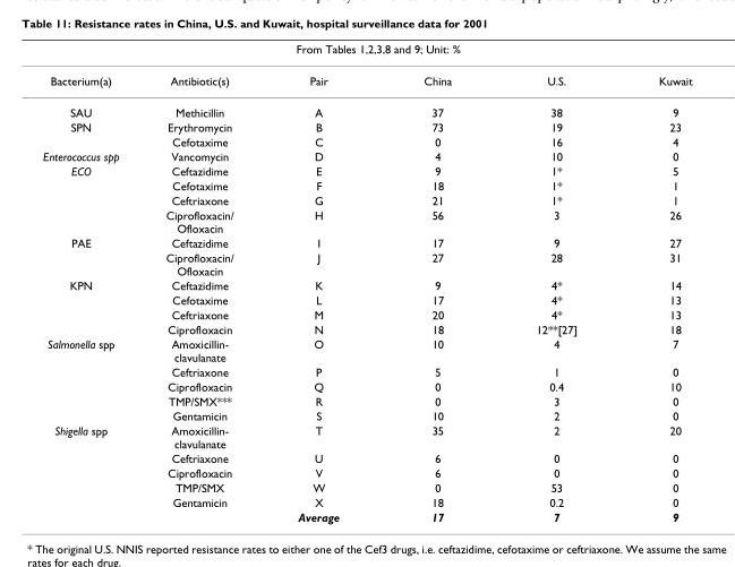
<table><thead><tr><td colspan="6">From Tables 1,2,3,8 and 9; Unit: %</td></tr><tr><td>Bacterium(a)</td><td>Antibiotic(s)</td><td>Pair</td><td>China</td><td>U.S.</td><td>Kuwait</td></tr></thead><tbody><tr><td>SAU</td><td>Methicillin</td><td>A</td><td>37</td><td>38</td><td>9</td></tr><tr><td rowspan="2">SPN</td><td>Erythromycin</td><td>B</td><td>73</td><td>19</td><td>23</td></tr><tr><td>Cefotaxime</td><td>C</td><td>0</td><td>16</td><td>4</td></tr><tr><td>Enterococcus spp</td><td>Vancomycin</td><td>D</td><td>4</td><td>10</td><td>0</td></tr><tr><td rowspan="4">ECO</td><td>Ceftazidime</td><td>E</td><td>9</td><td>1*</td><td>5</td></tr><tr><td>Cefotaxime</td><td>F</td><td>18</td><td>1*</td><td>1</td></tr><tr><td>Ceftriaxone</td><td>G</td><td>21</td><td>1*</td><td>1</td></tr><tr><td>Ciprofloxacin/ Ofloxacin</td><td>H</td><td>56</td><td>3</td><td>26</td></tr><tr><td rowspan="2">PAE</td><td>Ceftazidime</td><td>I</td><td>17</td><td>9</td><td>27</td></tr><tr><td>Ciprofloxacin/ Ofloxacin</td><td>J</td><td>27</td><td>28</td><td>31</td></tr><tr><td rowspan="4">KPN</td><td>Ceftazidime</td><td>K</td><td>9</td><td>4*</td><td>14</td></tr><tr><td>Cefotaxime</td><td>L</td><td>17</td><td>4*</td><td>13</td></tr><tr><td>Ceftriaxone</td><td>M</td><td>20</td><td>4*</td><td>13</td></tr><tr><td>Ciprofloxacin</td><td>N</td><td>18</td><td>12**[27]</td><td>18</td></tr><tr><td rowspan="5">Salmonella spp</td><td>Amoxicillin- clavulanate</td><td>O</td><td>10</td><td>4</td><td>7</td></tr><tr><td>Ceftriaxone</td><td>P</td><td>5</td><td>1</td><td>0</td></tr><tr><td>Ciprofloxacin</td><td>Q</td><td>0</td><td>0.4</td><td>10</td></tr><tr><td>TMP/SMX***</td><td>R</td><td>0</td><td>3</td><td>0</td></tr><tr><td>Gentamicin</td><td>S</td><td>10</td><td>2</td><td>0</td></tr><tr><td rowspan="6">Shigella spp</td><td>Amoxicillin- clavulanate</td><td>T</td><td>35</td><td>2</td><td>20</td></tr><tr><td>Ceftriaxone</td><td>U</td><td>6</td><td>0</td><td>0</td></tr><tr><td>Ciprofloxacin</td><td>V</td><td>6</td><td>0</td><td>0</td></tr><tr><td>TMP/SMX</td><td>W</td><td>0</td><td>53</td><td>0</td></tr><tr><td>Gentamicin</td><td>X</td><td>18</td><td>0.2</td><td>0</td></tr><tr><td></td><td>Average</td><td>17</td><td>7</td><td>9</td></tr></tbody></table>